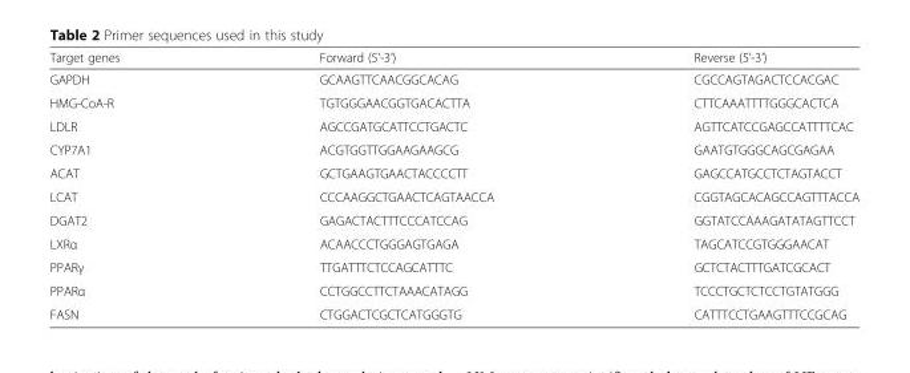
<table><thead><tr><td>Target genes</td><td>Forward (5’-3’)</td><td>Reverse (5’-3’)</td></tr></thead><tbody><tr><td>GAPDH</td><td>GCAAGTTCAACGGCACAG</td><td>CGCCAGTAGACTCCACGAC</td></tr><tr><td>HMG-CoA-R</td><td>TGTGGGAACGGTGACACTTA</td><td>CTTCAAATTTTGGGCACTCA</td></tr><tr><td>LDLR</td><td>AGCCGATGCATTCCTGACTC</td><td>AGTTCATCCGAGCCATTTTCAC</td></tr><tr><td>CYP7A1</td><td>ACGTGGTTGGAAGAAGCG</td><td>GAATGTGGGCAGCGAGAA</td></tr><tr><td>ACAT</td><td>GCTGAAGTGAACTACCCCTT</td><td>GAGCCATGCCTCTAGTACCT</td></tr><tr><td>LCAT</td><td>CCCAAGGCTGAACTCAGTAACCA</td><td>CGGTAGCACAGCCAGTTTACCA</td></tr><tr><td>DGAT2</td><td>GAGACTACTTTCCCATCCAG</td><td>GGTATCCAAAGATATAGTTCCT</td></tr><tr><td>LXRα</td><td>ACAACCCTGGGAGTGAGA</td><td>TAGCATCCGTGGGAACAT</td></tr><tr><td>PPARγ</td><td>TTGATTTCTCCAGCATTTC</td><td>GCTCTACTTTGATCGCACT</td></tr><tr><td>PPARα</td><td>CCTGGCCTTCTAAACATAGG</td><td>TCCCTGCTCTCCTGTATGGG</td></tr><tr><td>FASN</td><td>CTGGACTCGCTCATGGGTG</td><td>CATTTCCTGAAGTTTCCGCAG</td></tr></tbody></table>